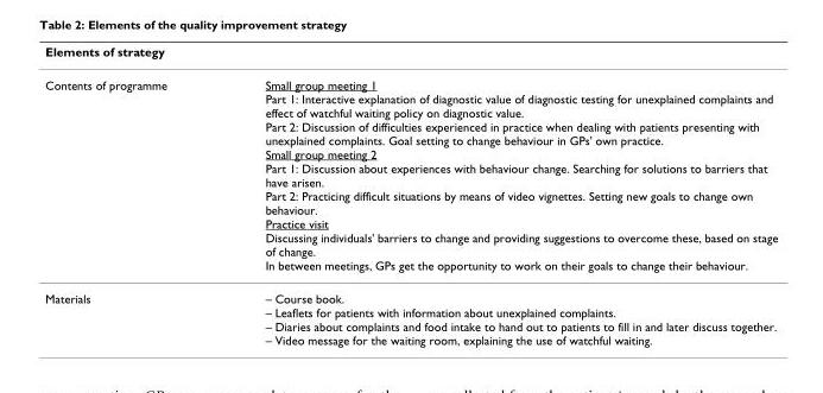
<table><thead><tr><td colspan="2">Elements of strategy</td></tr><tr><td>Contents of programme</td><td>Small group meeting 1 Part 1: Interactive explanation of diagnostic value of diagnostic testing for unexplained complaints and effect of watchful waiting policy on diagnostic value. Part 2: Discussion of difficulties experienced in practice when dealing with patients presenting with unexplained complaints. Goal setting to change behaviour in GPs&#x27; own practice. Small group meeting 2 Part 1: Discussion about experiences with behaviour change. Searching for solutions to barriers that have arisen. Part 2: Practicing difficult situations by means of video vignettes. Setting new goals to change own behaviour. Practice visit Discussing individuals&#x27; barriers to change and providing suggestions to overcome these, based on stage of change. In between meetings, GPs get the opportunity to work on their goals to change their behaviour.</td></tr></thead><tbody><tr><td>Materials</td><td>– Course book. – Leaflets for patients with information about unexplained complaints. – Diaries about complaints and food intake to hand out to patients to fill in and later discuss together. – Video message for the waiting room, explaining the use of watchful waiting.</td></tr></tbody></table>